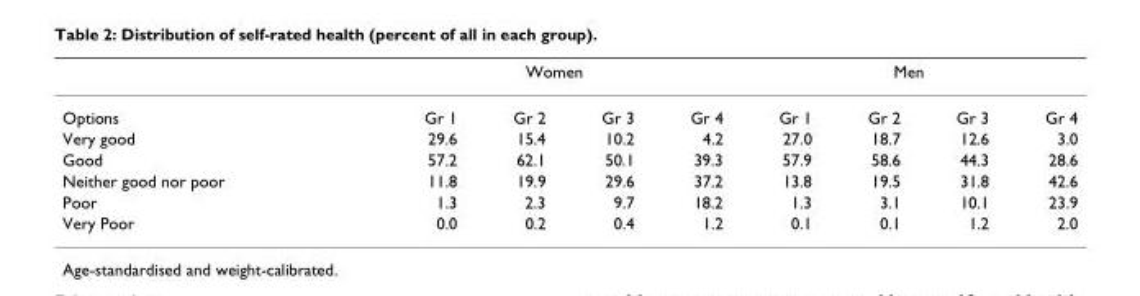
<table><thead><tr><td rowspan="2">Options</td><td colspan="4">Women</td><td colspan="4">Men</td></tr><tr><td>Gr 1</td><td>Gr 2</td><td>Gr 3</td><td>Gr 4</td><td>Gr 1</td><td>Gr 2</td><td>Gr 3</td><td>Gr 4</td></tr></thead><tbody><tr><td>Very good</td><td>29.6</td><td>15.4</td><td>10.2</td><td>4.2</td><td>27.0</td><td>18.7</td><td>12.6</td><td>3.0</td></tr><tr><td>Good</td><td>57.2</td><td>62.1</td><td>50.1</td><td>39.3</td><td>57.9</td><td>58.6</td><td>44.3</td><td>28.6</td></tr><tr><td>Neither good nor poor</td><td>11.8</td><td>19.9</td><td>29.6</td><td>37.2</td><td>13.8</td><td>19.5</td><td>31.8</td><td>42.6</td></tr><tr><td>Poor</td><td>1.3</td><td>2.3</td><td>9.7</td><td>18.2</td><td>1.3</td><td>3.1</td><td>10.1</td><td>23.9</td></tr><tr><td>Very Poor</td><td>0.0</td><td>0.2</td><td>0.4</td><td>1.2</td><td>0.1</td><td>0.1</td><td>1.2</td><td>2.0</td></tr></tbody></table>